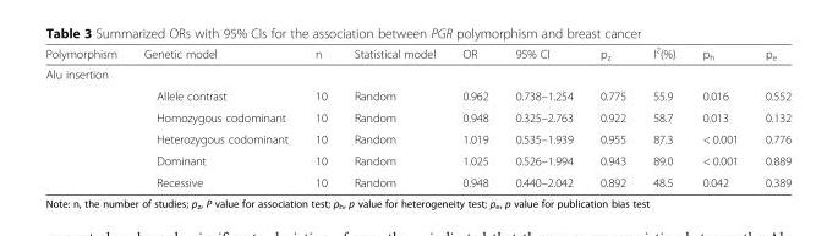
<table><thead><tr><td>Polymorphism</td><td>Genetic model</td><td>n</td><td>Statistical model</td><td>OR</td><td>95% CI</td><td>p<sub>z</sub></td><td>I<sup>2</sup>(%)</td><td>p<sub>h</sub></td><td>p<sub>e</sub></td></tr></thead><tbody><tr><td colspan="10">Alu insertion</td></tr><tr><td></td><td>Allele contrast</td><td>10</td><td>Random</td><td>0.962</td><td>0.738–1.254</td><td>0.775</td><td>55.9</td><td>0.016</td><td>0.552</td></tr><tr><td></td><td>Homozygous codominant</td><td>10</td><td>Random</td><td>0.948</td><td>0.325–2.763</td><td>0.922</td><td>58.7</td><td>0.013</td><td>0.132</td></tr><tr><td></td><td>Heterozygous codominant</td><td>10</td><td>Random</td><td>1.019</td><td>0.535–1.939</td><td>0.955</td><td>87.3</td><td>&lt; 0.001</td><td>0.776</td></tr><tr><td></td><td>Dominant</td><td>10</td><td>Random</td><td>1.025</td><td>0.526–1.994</td><td>0.943</td><td>89.0</td><td>&lt; 0.001</td><td>0.889</td></tr><tr><td></td><td>Recessive</td><td>10</td><td>Random</td><td>0.948</td><td>0.440–2.042</td><td>0.892</td><td>48.5</td><td>0.042</td><td>0.389</td></tr></tbody></table>